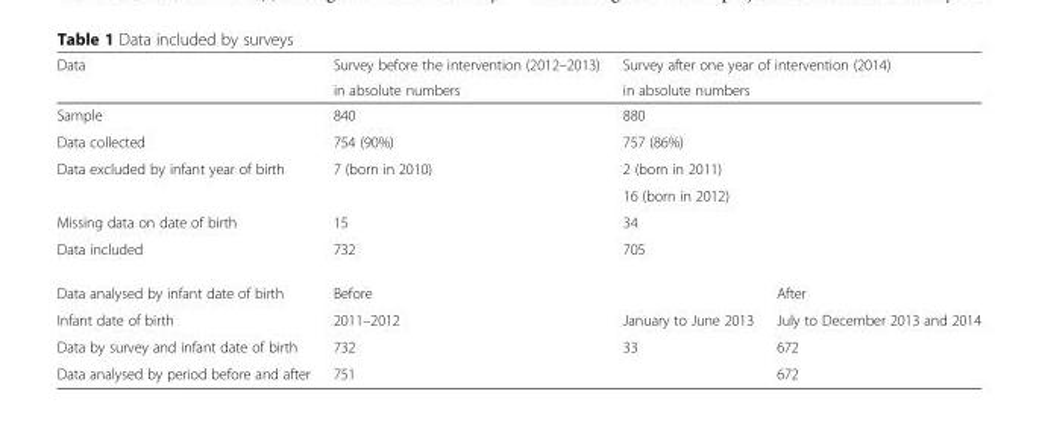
<table><thead><tr><td rowspan="2">Data</td><td rowspan="2">Survey before the intervention (2012–2013) in absolute numbers</td><td rowspan="2" colspan="2">Survey after one year of intervention (2014) in absolute numbers</td></tr><tr></tr></thead><tbody><tr><td>Sample</td><td>840</td><td colspan="2">880</td></tr><tr><td>Data collected</td><td>754 (90%)</td><td colspan="2">757 (86%)</td></tr><tr><td rowspan="2">Data excluded by infant year of birth</td><td rowspan="2">7 (born in 2010)</td><td colspan="2">2 (born in 2011)</td></tr><tr><td colspan="2">16 (born in 2012)</td></tr><tr><td>Missing data on date of birth</td><td>15</td><td colspan="2">34</td></tr><tr><td>Data included</td><td>732</td><td colspan="2">705</td></tr><tr><td>Data analysed by infant date of birth</td><td colspan="2">Before</td><td>After</td></tr><tr><td>Infant date of birth</td><td>2011–2012</td><td>January to June 2013</td><td>July to December 2013 and 2014</td></tr><tr><td>Data by survey and infant date of birth</td><td>732</td><td>33</td><td>672</td></tr><tr><td>Data analysed by period before and after</td><td colspan="2">751</td><td>672</td></tr></tbody></table>